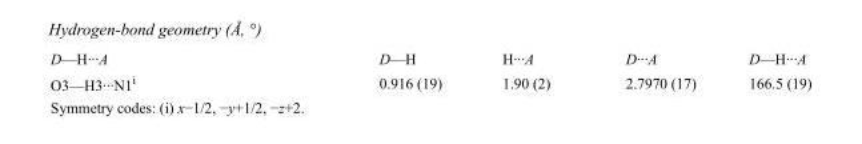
<table><tbody><tr><td>D—H···A</td><td>D—H</td><td>H···A</td><td>D···A</td><td>D—H···A</td></tr><tr><td>O3—H3···N1<sup>i</sup></td><td>0.916 (19)</td><td>1.90 (2)</td><td>2.7970 (17)</td><td>166.5 (19)</td></tr></tbody></table>